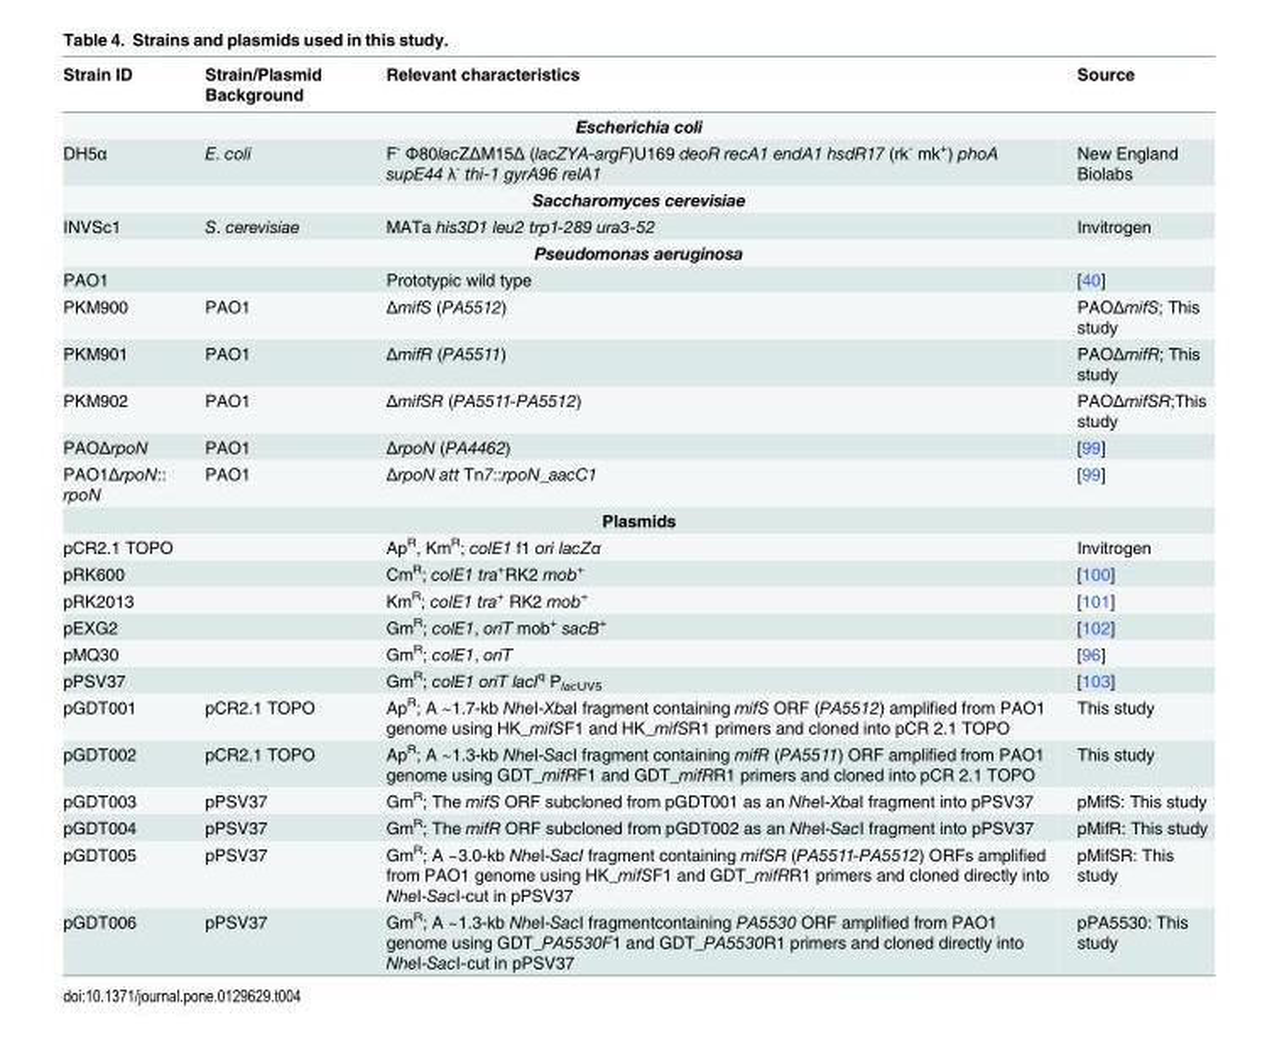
<table><thead><tr><td>Strain ID</td><td>Strain/Plasmid Background</td><td>Relevant characteristics</td><td>Source</td></tr></thead><tbody><tr><td colspan="4">Escherichia coli</td></tr><tr><td>DH5α</td><td>E. coli</td><td>F<sup>-</sup> Φ80lacZΔM15Δ (lacZYA-argF)U169 deoR recA1 endA1 hsdR17 (rk<sup>-</sup> mk<sup>+</sup>) phoA supE44 λ<sup>-</sup> thi-1 gyrA96 relA1</td><td>New England Biolabs</td></tr><tr><td colspan="4">Saccharomyces cerevisiae</td></tr><tr><td>INVSc1</td><td>S. cerevisiae</td><td>MATa his3D1 leu2 trp1-289 ura3-52</td><td>Invitrogen</td></tr><tr><td colspan="4">Pseudomonas aeruginosa</td></tr><tr><td>PAO1</td><td></td><td>Prototypic wild type</td><td>[40]</td></tr><tr><td>PKM900</td><td>PAO1</td><td>ΔmifS (PA5512)</td><td>PAOΔmifS; This study</td></tr><tr><td>PKM901</td><td>PAO1</td><td>ΔmifR (PA5511)</td><td>PAOΔmifR; This study</td></tr><tr><td>PKM902</td><td>PAO1</td><td>ΔmifSR (PA5511-PA5512)</td><td>PAOΔmifSR;This study</td></tr><tr><td>PAOΔrpoN</td><td>PAO1</td><td>ΔrpoN (PA4462)</td><td>[99]</td></tr><tr><td>PAO1ΔrpoN:: rpoN</td><td>PAO1</td><td>ΔrpoN att Tn7::rpoN_aacC1</td><td>[99]</td></tr><tr><td colspan="4">Plasmids</td></tr><tr><td>pCR2.1 TOPO</td><td></td><td>Ap<sup>R</sup>, Km<sup>R</sup>; colE1 f1 ori lacZα</td><td>Invitrogen</td></tr><tr><td>pRK600</td><td></td><td>Cm<sup>R</sup>; colE1 tra<sup>+</sup>RK2 mob<sup>+</sup></td><td>[100]</td></tr><tr><td>pRK2013</td><td></td><td>Km<sup>R</sup>; colE1 tra<sup>+</sup> RK2 mob<sup>+</sup></td><td>[101]</td></tr><tr><td>pEXG2</td><td></td><td>Gm<sup>R</sup>; colE1, oriT mob<sup>+</sup> sacB<sup>+</sup></td><td>[102]</td></tr><tr><td>pMQ30</td><td></td><td>Gm<sup>R</sup>; colE1, oriT</td><td>[96]</td></tr><tr><td>pPSV37</td><td></td><td>Gm<sup>R</sup>; colE1 oriT lacI<sup>q</sup> P<sub>lacUV5</sub></td><td>[103]</td></tr><tr><td>pGDT001</td><td>pCR2.1 TOPO</td><td>Ap<sup>R</sup>; A ~1.7-kb NheI-XbaI fragment containing mifS ORF (PA5512) amplified from PAO1 genome using HK_mifSF1 and HK_mifSR1 primers and cloned into pCR 2.1 TOPO</td><td>This study</td></tr><tr><td>pGDT002</td><td>pCR2.1 TOPO</td><td>Ap<sup>R</sup>; A ~1.3-kb NheI-SacI fragment containing mifR (PA5511) ORF amplified from PAO1 genome using GDT_mifRF1 and GDT_mifRR1 primers and cloned into pCR 2.1 TOPO</td><td>This study</td></tr><tr><td>pGDT003</td><td>pPSV37</td><td>Gm<sup>R</sup>; The mifS ORF subcloned from pGDT001 as an NheI-XbaI fragment into pPSV37</td><td>pMifS: This study</td></tr><tr><td>pGDT004</td><td>pPSV37</td><td>Gm<sup>R</sup>; The mifR ORF subcloned from pGDT002 as an NheI-SacI fragment into pPSV37</td><td>pMifR: This study</td></tr><tr><td>pGDT005</td><td>pPSV37</td><td>Gm<sup>R</sup>; A ~3.0-kb NheI-SacI fragment containing mifSR (PA5511-PA5512) ORFs amplified from PAO1 genome using HK_mifSF1 and GDT_mifRR1 primers and cloned directly into NheI-SacI-cut in pPSV37</td><td>pMifSR: This study</td></tr><tr><td>pGDT006</td><td>pPSV37</td><td>Gm<sup>R</sup>; A ~1.3-kb NheI-SacI fragmentcontaining PA5530 ORF amplified from PAO1 genome using GDT_PA5530F1 and GDT_PA5530R1 primers and cloned directly into NheI-SacI-cut in pPSV37</td><td>pPA5530: This study</td></tr></tbody></table>